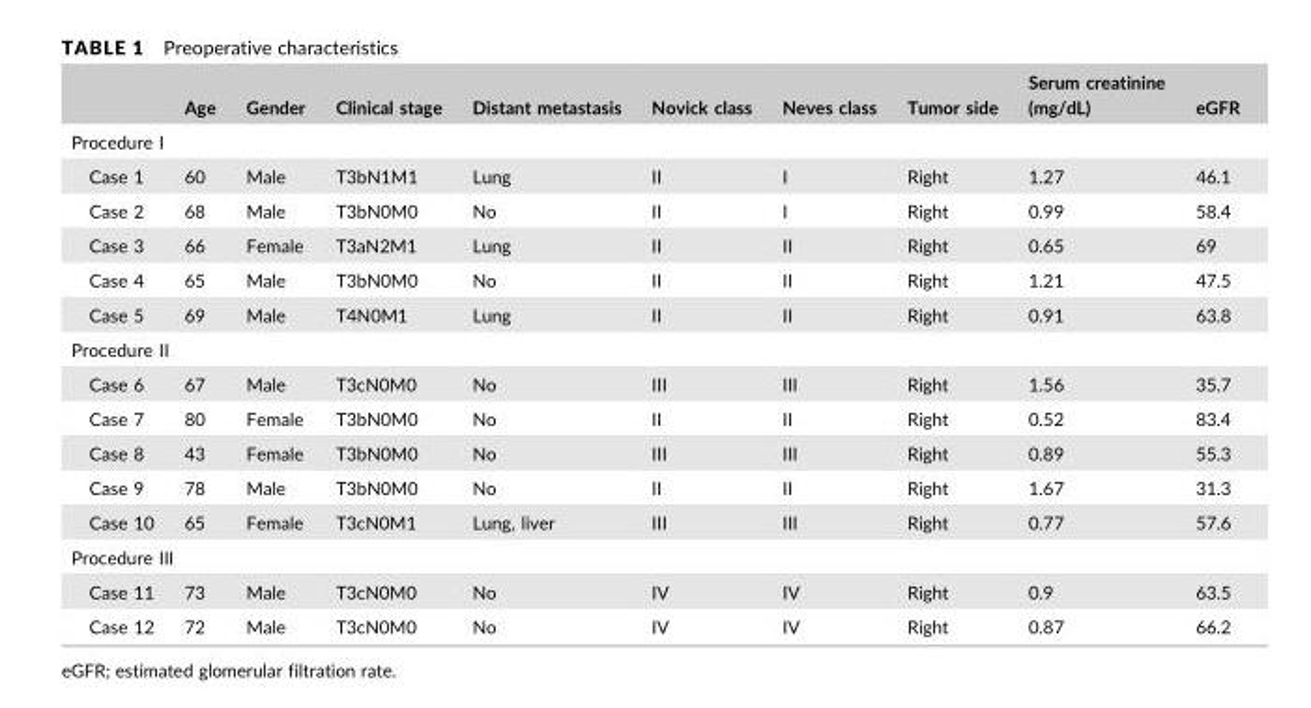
<table><thead><tr><td></td><td>Age</td><td>Gender</td><td>Clinical stage</td><td>Distant metastasis</td><td>Novick class</td><td>Neves class</td><td>Tumor side</td><td>Serum creatinine (mg/dL)</td><td>eGFR</td></tr></thead><tbody><tr><td colspan="10">Procedure I</td></tr><tr><td>Case 1</td><td>60</td><td>Male</td><td>T3bN1M1</td><td>Lung</td><td>II</td><td>I</td><td>Right</td><td>1.27</td><td>46.1</td></tr><tr><td>Case 2</td><td>68</td><td>Male</td><td>T3bN0M0</td><td>No</td><td>II</td><td>I</td><td>Right</td><td>0.99</td><td>58.4</td></tr><tr><td>Case 3</td><td>66</td><td>Female</td><td>T3aN2M1</td><td>Lung</td><td>II</td><td>II</td><td>Right</td><td>0.65</td><td>69</td></tr><tr><td>Case 4</td><td>65</td><td>Male</td><td>T3bN0M0</td><td>No</td><td>II</td><td>II</td><td>Right</td><td>1.21</td><td>47.5</td></tr><tr><td>Case 5</td><td>69</td><td>Male</td><td>T4N0M1</td><td>Lung</td><td>II</td><td>II</td><td>Right</td><td>0.91</td><td>63.8</td></tr><tr><td colspan="10">Procedure II</td></tr><tr><td>Case 6</td><td>67</td><td>Male</td><td>T3cN0M0</td><td>No</td><td>III</td><td>III</td><td>Right</td><td>1.56</td><td>35.7</td></tr><tr><td>Case 7</td><td>80</td><td>Female</td><td>T3bN0M0</td><td>No</td><td>II</td><td>II</td><td>Right</td><td>0.52</td><td>83.4</td></tr><tr><td>Case 8</td><td>43</td><td>Female</td><td>T3bN0M0</td><td>No</td><td>III</td><td>III</td><td>Right</td><td>0.89</td><td>55.3</td></tr><tr><td>Case 9</td><td>78</td><td>Male</td><td>T3bN0M0</td><td>No</td><td>II</td><td>II</td><td>Right</td><td>1.67</td><td>31.3</td></tr><tr><td>Case 10</td><td>65</td><td>Female</td><td>T3cN0M1</td><td>Lung, liver</td><td>III</td><td>III</td><td>Right</td><td>0.77</td><td>57.6</td></tr><tr><td colspan="10">Procedure III</td></tr><tr><td>Case 11</td><td>73</td><td>Male</td><td>T3cN0M0</td><td>No</td><td>IV</td><td>IV</td><td>Right</td><td>0.9</td><td>63.5</td></tr><tr><td>Case 12</td><td>72</td><td>Male</td><td>T3cN0M0</td><td>No</td><td>IV</td><td>IV</td><td>Right</td><td>0.87</td><td>66.2</td></tr></tbody></table>